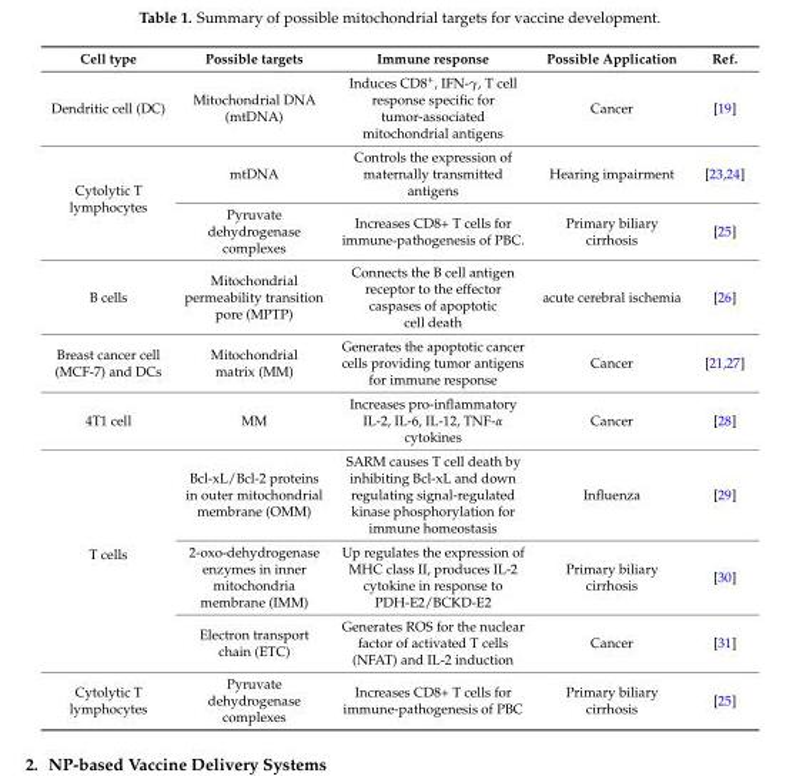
<table><thead><tr><td>Cell type</td><td>Possible targets</td><td>Immune response</td><td>Possible Application</td><td>Ref.</td></tr></thead><tbody><tr><td>Dendritic cell (DC)</td><td>Mitochondrial DNA (mtDNA)</td><td>Induces CD8<sup>+</sup>, IFN-γ, T cell response specific for tumor-associated mitochondrial antigens</td><td>Cancer</td><td>[19]</td></tr><tr><td rowspan="2">Cytolytic T lymphocytes</td><td>mtDNA</td><td>Controls the expression of maternally transmitted antigens</td><td>Hearing impairment</td><td>[23,24]</td></tr><tr><td>Pyruvate dehydrogenase complexes</td><td>Increases CD8+ T cells for immune-pathogenesis of PBC.</td><td>Primary biliary cirrhosis</td><td>[25]</td></tr><tr><td>B cells</td><td>Mitochondrial permeability transition pore (MPTP)</td><td>Connects the B cell antigen receptor to the effector caspases of apoptotic cell death</td><td>acute cerebral ischemia</td><td>[26]</td></tr><tr><td>Breast cancer cell (MCF-7) and DCs</td><td>Mitochondrial matrix (MM)</td><td>Generates the apoptotic cancer cells providing tumor antigens for immune response</td><td>Cancer</td><td>[21,27]</td></tr><tr><td>4T1 cell</td><td>MM</td><td>Increases pro-inflammatory IL-2, IL-6, IL-12, TNF-α cytokines</td><td>Cancer</td><td>[28]</td></tr><tr><td rowspan="3">T cells</td><td>Bcl-xL/Bcl-2 proteins in outer mitochondrial membrane (OMM)</td><td>SARM causes T cell death by inhibiting Bcl-xL and down regulating signal-regulated kinase phosphorylation for immune homeostasis</td><td>Influenza</td><td>[29]</td></tr><tr><td>2-oxo-dehydrogenase enzymes in inner mitochondria membrane (IMM)</td><td>Up regulates the expression of MHC class II, produces IL-2 cytokine in response to PDH-E2/BCKD-E2</td><td>Primary biliary cirrhosis</td><td>[30]</td></tr><tr><td>Electron transport chain (ETC)</td><td>Generates ROS for the nuclear factor of activated T cells (NFAT) and IL-2 induction</td><td>Cancer</td><td>[31]</td></tr><tr><td>Cytolytic T lymphocytes</td><td>Pyruvate dehydrogenase complexes</td><td>Increases CD8+ T cells for immune-pathogenesis of PBC</td><td>Primary biliary cirrhosis</td><td>[25]</td></tr></tbody></table>